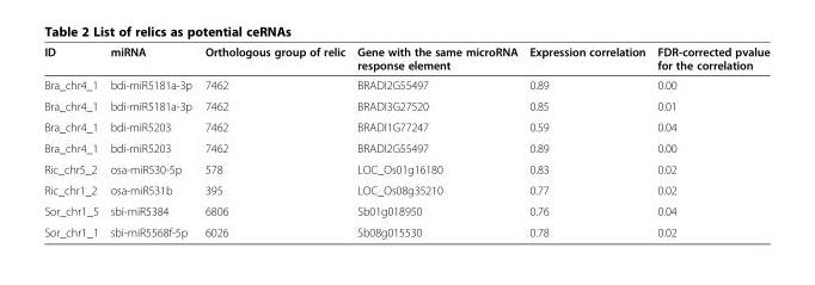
<table><thead><tr><td>ID</td><td>miRNA</td><td>Orthologous group of relic</td><td>Gene with the same microRNA response element</td><td>Expression correlation</td><td>FDR-corrected pvalue for the correlation</td></tr></thead><tbody><tr><td>Bra_chr4_1</td><td>bdi-miR5181a-3p</td><td>7462</td><td>BRADI2G55497</td><td>0.89</td><td>0.00</td></tr><tr><td>Bra_chr4_1</td><td>bdi-miR5181a-3p</td><td>7462</td><td>BRADI3G27520</td><td>0.85</td><td>0.01</td></tr><tr><td>Bra_chr4_1</td><td>bdi-miR5203</td><td>7462</td><td>BRADI1G77247</td><td>0.59</td><td>0.04</td></tr><tr><td>Bra_chr4_1</td><td>bdi-miR5203</td><td>7462</td><td>BRADI2G55497</td><td>0.89</td><td>0.00</td></tr><tr><td>Ric_chr5_2</td><td>osa-miR530-5p</td><td>578</td><td>LOC_Os01g16180</td><td>0.83</td><td>0.02</td></tr><tr><td>Ric_chr1_2</td><td>osa-miR531b</td><td>395</td><td>LOC_Os08g35210</td><td>0.77</td><td>0.02</td></tr><tr><td>Sor_chr1_5</td><td>sbi-miR5384</td><td>6806</td><td>Sb01g018950</td><td>0.76</td><td>0.04</td></tr><tr><td>Sor_chr1_1</td><td>sbi-miR5568f-5p</td><td>6026</td><td>Sb08g015530</td><td>0.78</td><td>0.02</td></tr></tbody></table>